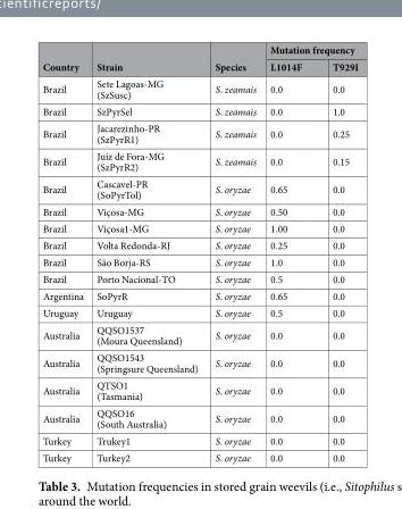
<table><thead><tr><td rowspan="2">Country</td><td rowspan="2">Strain</td><td rowspan="2">Species</td><td colspan="2">Mutation frequency</td></tr><tr><td>L1014F</td><td>T929I</td></tr></thead><tbody><tr><td>Brazil</td><td>Sete Lagoas-MG (SzSusc)</td><td>S. zeamais</td><td>0.0</td><td>0.0</td></tr><tr><td>Brazil</td><td>SzPyrSel</td><td>S. zeamais</td><td>0.0</td><td>1.0</td></tr><tr><td>Brazil</td><td>Jacarezinho-PR (SzPyrR1)</td><td>S. zeamais</td><td>0.0</td><td>0.25</td></tr><tr><td>Brazil</td><td>Juiz de Fora-MG (SzPyrR2)</td><td>S. zeamais</td><td>0.0</td><td>0.15</td></tr><tr><td>Brazil</td><td>Cascavel-PR (SoPyrTol)</td><td>S. oryzae</td><td>0.65</td><td>0.0</td></tr><tr><td>Brazil</td><td>Viçosa-MG</td><td>S. oryzae</td><td>0.50</td><td>0.0</td></tr><tr><td>Brazil</td><td>Viçosa1-MG</td><td>S. oryzae</td><td>1.00</td><td>0.0</td></tr><tr><td>Brazil</td><td>Volta Redonda-RJ</td><td>S. oryzae</td><td>0.25</td><td>0.0</td></tr><tr><td>Brazil</td><td>São Borja-RS</td><td>S. oryzae</td><td>1.0</td><td>0.0</td></tr><tr><td>Brazil</td><td>Porto Nacional-TO</td><td>S. oryzae</td><td>0.5</td><td>0.0</td></tr><tr><td>Argentina</td><td>SoPyrR</td><td>S. oryzae</td><td>0.65</td><td>0.0</td></tr><tr><td>Uruguay</td><td>Uruguay</td><td>S. oryzae</td><td>0.5</td><td>0.0</td></tr><tr><td>Australia</td><td>QQSO1537 (Moura Queensland)</td><td>S. oryzae</td><td>0.0</td><td>0.0</td></tr><tr><td>Australia</td><td>QQSO1543 (Springsure Queensland)</td><td>S. oryzae</td><td>0.0</td><td>0.0</td></tr><tr><td>Australia</td><td>QTSO1 (Tasmania)</td><td>S. oryzae</td><td>0.0</td><td>0.0</td></tr><tr><td>Australia</td><td>QQSO16 (South Australia)</td><td>S. oryzae</td><td>0.0</td><td>0.0</td></tr><tr><td>Turkey</td><td>Trukey1</td><td>S. oryzae</td><td>0.0</td><td>0.0</td></tr><tr><td>Turkey</td><td>Turkey2</td><td>S. oryzae</td><td>0.0</td><td>0.0</td></tr></tbody></table>